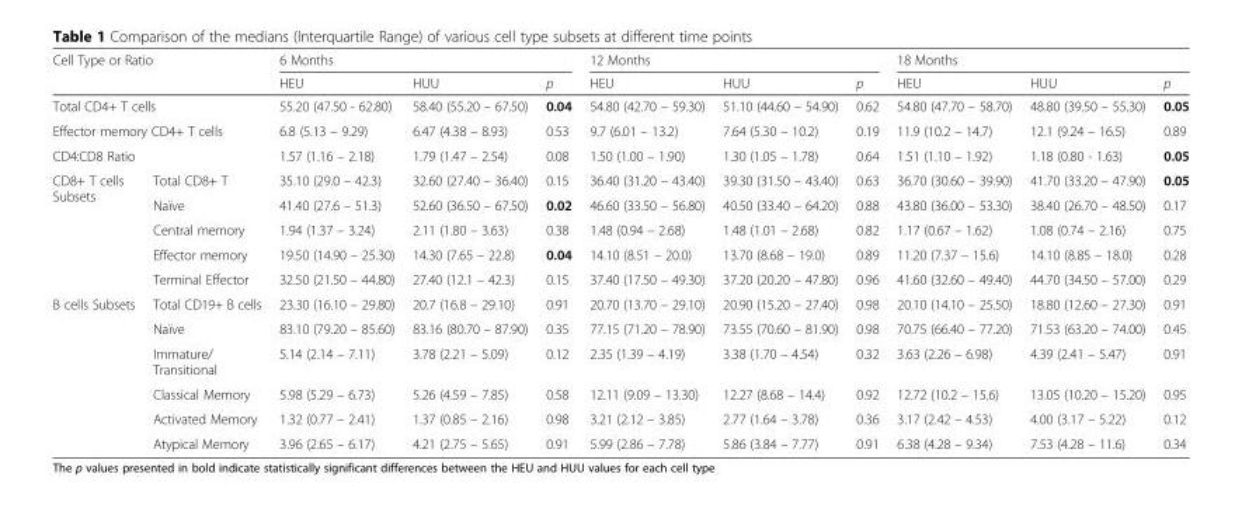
<table><thead><tr><td rowspan="2" colspan="2">Cell Type or Ratio</td><td colspan="3">6 Months</td><td colspan="3">12 Months</td><td colspan="3">18 Months</td></tr><tr><td>HEU</td><td>HUU</td><td>p</td><td>HEU</td><td>HUU</td><td>p</td><td>HEU</td><td>HUU</td><td>p</td></tr></thead><tbody><tr><td colspan="2">Total CD4+ T cells</td><td>55.20 (47.50 - 62.80)</td><td>58.40 (55.20 – 67.50)</td><td>0.04</td><td>54.80 (42.70 – 59.30)</td><td>51.10 (44.60 – 54.90)</td><td>0.62</td><td>54.80 (47.70 – 58.70)</td><td>48.80 (39.50 – 55.30)</td><td>0.05</td></tr><tr><td colspan="2">Effector memory CD4+ T cells</td><td>6.8 (5.13 – 9.29)</td><td>6.47 (4.38 – 8.93)</td><td>0.53</td><td>9.7 (6.01 – 13.2)</td><td>7.64 (5.30 – 10.2)</td><td>0.19</td><td>11.9 (10.2 – 14.7)</td><td>12.1 (9.24 – 16.5)</td><td>0.89</td></tr><tr><td colspan="2">CD4:CD8 Ratio</td><td>1.57 (1.16 – 2.18)</td><td>1.79 (1.47 – 2.54)</td><td>0.08</td><td>1.50 (1.00 – 1.90)</td><td>1.30 (1.05 – 1.78)</td><td>0.64</td><td>1.51 (1.10 – 1.92)</td><td>1.18 (0.80 - 1.63)</td><td>0.05</td></tr><tr><td rowspan="5">CD8+ T cells Subsets</td><td>Total CD8+ T</td><td>35.10 (29.0 – 42.3)</td><td>32.60 (27.40 – 36.40)</td><td>0.15</td><td>36.40 (31.20 – 43.40)</td><td>39.30 (31.50 – 43.40)</td><td>0.63</td><td>36.70 (30.60 – 39.90)</td><td>41.70 (33.20 – 47.90)</td><td>0.05</td></tr><tr><td>Naïve</td><td>41.40 (27.6 – 51.3)</td><td>52.60 (36.50 – 67.50)</td><td>0.02</td><td>46.60 (33.50 – 56.80)</td><td>40.50 (33.40 – 64.20)</td><td>0.88</td><td>43.80 (36.00 – 53.30)</td><td>38.40 (26.70 – 48.50)</td><td>0.17</td></tr><tr><td>Central memory</td><td>1.94 (1.37 – 3.24)</td><td>2.11 (1.80 – 3.63)</td><td>0.38</td><td>1.48 (0.94 – 2.68)</td><td>1.48 (1.01 – 2.68)</td><td>0.82</td><td>1.17 (0.67 – 1.62)</td><td>1.08 (0.74 – 2.16)</td><td>0.75</td></tr><tr><td>Effector memory</td><td>19.50 (14.90 – 25.30)</td><td>14.30 (7.65 – 22.8)</td><td>0.04</td><td>14.10 (8.51 – 20.0)</td><td>13.70 (8.68 – 19.0)</td><td>0.89</td><td>11.20 (7.37 – 15.6)</td><td>14.10 (8.85 – 18.0)</td><td>0.28</td></tr><tr><td>Terminal Effector</td><td>32.50 (21.50 – 44.80)</td><td>27.40 (12.1 – 42.3)</td><td>0.15</td><td>37.40 (17.50 – 49.30)</td><td>37.20 (20.20 – 47.80)</td><td>0.96</td><td>41.60 (32.60 – 49.40)</td><td>44.70 (34.50 – 57.00)</td><td>0.29</td></tr><tr><td rowspan="6">B cells Subsets</td><td>Total CD19+ B cells</td><td>23.30 (16.10 – 29.80)</td><td>20.7 (16.8 – 29.10)</td><td>0.91</td><td>20.70 (13.70 – 29.10)</td><td>20.90 (15.20 – 27.40)</td><td>0.98</td><td>20.10 (14.10 – 25.50)</td><td>18.80 (12.60 – 27.30)</td><td>0.91</td></tr><tr><td>Naïve</td><td>83.10 (79.20 – 85.60)</td><td>83.16 (80.70 – 87.90)</td><td>0.35</td><td>77.15 (71.20 – 78.90)</td><td>73.55 (70.60 – 81.90)</td><td>0.98</td><td>70.75 (66.40 – 77.20)</td><td>71.53 (63.20 – 74.00)</td><td>0.45</td></tr><tr><td>Immature/ Transitional</td><td>5.14 (2.14 – 7.11)</td><td>3.78 (2.21 – 5.09)</td><td>0.12</td><td>2.35 (1.39 – 4.19)</td><td>3.38 (1.70 – 4.54)</td><td>0.32</td><td>3.63 (2.26 – 6.98)</td><td>4.39 (2.41 – 5.47)</td><td>0.91</td></tr><tr><td>Classical Memory</td><td>5.98 (5.29 – 6.73)</td><td>5.26 (4.59 – 7.85)</td><td>0.58</td><td>12.11 (9.09 – 13.30)</td><td>12.27 (8.68 – 14.4)</td><td>0.92</td><td>12.72 (10.2 – 15.6)</td><td>13.05 (10.20 – 15.20)</td><td>0.95</td></tr><tr><td>Activated Memory</td><td>1.32 (0.77 – 2.41)</td><td>1.37 (0.85 – 2.16)</td><td>0.98</td><td>3.21 (2.12 – 3.85)</td><td>2.77 (1.64 – 3.78)</td><td>0.36</td><td>3.17 (2.42 – 4.53)</td><td>4.00 (3.17 – 5.22)</td><td>0.12</td></tr><tr><td>Atypical Memory</td><td>3.96 (2.65 – 6.17)</td><td>4.21 (2.75 – 5.65)</td><td>0.91</td><td>5.99 (2.86 – 7.78)</td><td>5.86 (3.84 – 7.77)</td><td>0.91</td><td>6.38 (4.28 – 9.34)</td><td>7.53 (4.28 – 11.6)</td><td>0.34</td></tr></tbody></table>